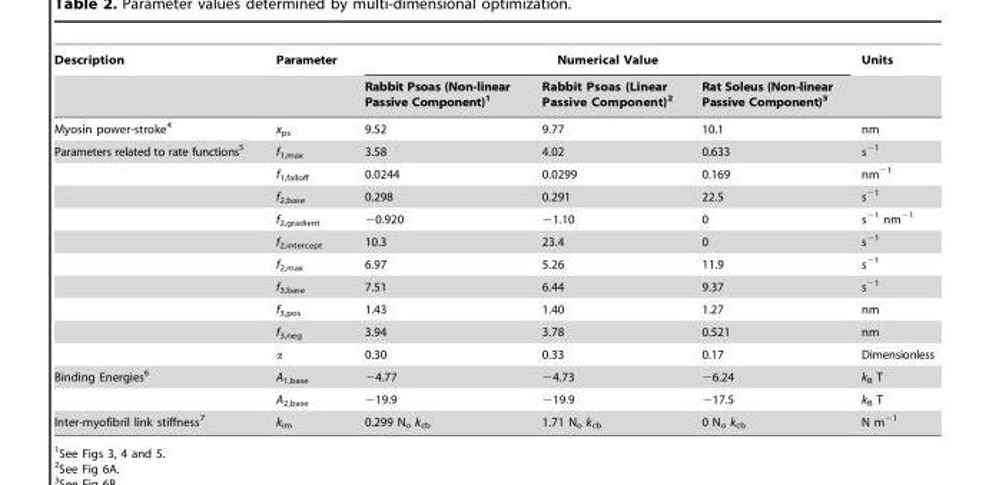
<table><thead><tr><td rowspan="2">Description</td><td rowspan="2">Parameter</td><td colspan="3">Numerical Value</td><td rowspan="2">Units</td></tr><tr><td>Rabbit Psoas (Non-linear Passive Component)<sup>1</sup></td><td>Rabbit Psoas (Linear Passive Component)<sup>2</sup></td><td>Rat Soleus (Non-linear Passive Component)<sup>3</sup></td></tr></thead><tbody><tr><td>Myosin power-stroke<sup>4</sup></td><td>x<sub>ps</sub></td><td>9.52</td><td>9.77</td><td>10.1</td><td>nm</td></tr><tr><td rowspan="10">Parameters related to rate functions<sup>5</sup></td><td>f<sub>1,max</sub></td><td>3.58</td><td>4.02</td><td>0.633</td><td>s<sup>−1</sup></td></tr><tr><td>f<sub>1,falloff</sub></td><td>0.0244</td><td>0.0299</td><td>0.169</td><td>nm<sup>−1</sup></td></tr><tr><td>f<sub>2,base</sub></td><td>0.298</td><td>0.291</td><td>22.5</td><td>s<sup>−1</sup></td></tr><tr><td>f<sub>2,gradient</sub></td><td>−0.920</td><td>−1.10</td><td>0</td><td>s<sup>−1</sup> nm<sup>−1</sup></td></tr><tr><td>f<sub>2,intercept</sub></td><td>10.3</td><td>23.4</td><td>0</td><td>s<sup>−1</sup></td></tr><tr><td>f<sub>2,max</sub></td><td>6.97</td><td>5.26</td><td>11.9</td><td>s<sup>−1</sup></td></tr><tr><td>f<sub>3,base</sub></td><td>7.51</td><td>6.44</td><td>9.37</td><td>s<sup>−1</sup></td></tr><tr><td>f<sub>3,pos</sub></td><td>1.43</td><td>1.40</td><td>1.27</td><td>nm</td></tr><tr><td>f<sub>3,neg</sub></td><td>3.94</td><td>3.78</td><td>0.521</td><td>nm</td></tr><tr><td>α</td><td>0.30</td><td>0.33</td><td>0.17</td><td>Dimensionless</td></tr><tr><td rowspan="2">Binding Energies<sup>6</sup></td><td>A<sub>1,base</sub></td><td>−4.77</td><td>−4.73</td><td>−6.24</td><td>k<sub>B</sub> T</td></tr><tr><td>A<sub>2,base</sub></td><td>−19.9</td><td>−19.9</td><td>−17.5</td><td>k<sub>B</sub> T</td></tr><tr><td>Inter-myofibril link stiffness<sup>7</sup></td><td>k<sub>im</sub></td><td>0.299 N<sub>o</sub> k<sub>cb</sub></td><td>1.71 N<sub>o</sub> k<sub>cb</sub></td><td>0 N<sub>o</sub> k<sub>cb</sub></td><td>N m<sup>−1</sup></td></tr></tbody></table>